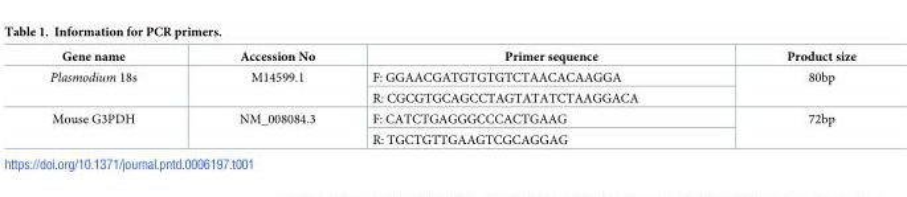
<table><thead><tr><td>Gene name</td><td>Accession No</td><td>Primer sequence</td><td>Product size</td></tr></thead><tbody><tr><td rowspan="2">Plasmodium 18s</td><td rowspan="2">M14599.1</td><td>F: GGAACGATGTGTGTCTAACACAAGGA</td><td rowspan="2">80bp</td></tr><tr><td>R: CGCGTGCAGCCTAGTATATCTAAGGACA</td></tr><tr><td rowspan="2">Mouse G3PDH</td><td rowspan="2">NM_008084.3</td><td>F: CATCTGAGGGCCCACTGAAG</td><td rowspan="2">72bp</td></tr><tr><td>R: TGCTGTTGAAGTCGCAGGAG</td></tr></tbody></table>